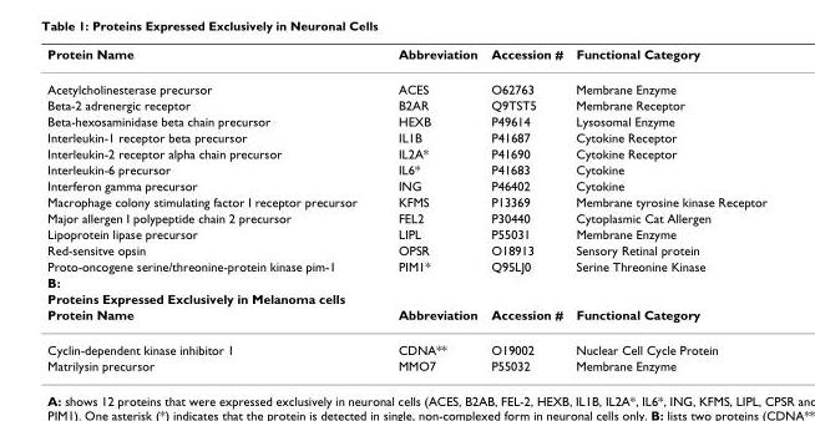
<table><thead><tr><td>Protein Name</td><td>Abbreviation</td><td>Accession #</td><td>Functional Category</td></tr></thead><tbody><tr><td>Acetylcholinesterase precursor</td><td>ACES</td><td>O62763</td><td>Membrane Enzyme</td></tr><tr><td>Beta-2 adrenergic receptor</td><td>B2AR</td><td>Q9TST5</td><td>Membrane Receptor</td></tr><tr><td>Beta-hexosaminidase beta chain precursor</td><td>HEXB</td><td>P49614</td><td>Lysosomal Enzyme</td></tr><tr><td>Interleukin-1 receptor beta precursor</td><td>IL1B</td><td>P41687</td><td>Cytokine Receptor</td></tr><tr><td>Interleukin-2 receptor alpha chain precursor</td><td>IL2A*</td><td>P41690</td><td>Cytokine Receptor</td></tr><tr><td>Interleukin-6 precursor</td><td>IL6*</td><td>P41683</td><td>Cytokine</td></tr><tr><td>Interferon gamma precursor</td><td>ING</td><td>P46402</td><td>Cytokine</td></tr><tr><td>Macrophage colony stimulating factor I receptor precursor</td><td>KFMS</td><td>P13369</td><td>Membrane tyrosine kinase Receptor</td></tr><tr><td>Major allergen I polypeptide chain 2 precursor</td><td>FEL2</td><td>P30440</td><td>Cytoplasmic Cat Allergen</td></tr><tr><td>Lipoprotein lipase precursor</td><td>LIPL</td><td>P55031</td><td>Membrane Enzyme</td></tr><tr><td>Red-sensitve opsin</td><td>OPSR</td><td>O18913</td><td>Sensory Retinal protein</td></tr><tr><td>Proto-oncogene serine/threonine-protein kinase pim-1</td><td>PIM1*</td><td>Q95LJ0</td><td>Serine Threonine Kinase</td></tr><tr><td colspan="4">B:</td></tr><tr><td colspan="4">Proteins Expressed Exclusively in Melanoma cells</td></tr><tr><td>Protein Name</td><td>Abbreviation</td><td>Accession #</td><td>Functional Category</td></tr><tr><td>Cyclin-dependent kinase inhibitor 1</td><td>CDNA**</td><td>O19002</td><td>Nuclear Cell Cycle Protein</td></tr><tr><td>Matrilysin precursor</td><td>MMO7</td><td>P55032</td><td>Membrane Enzyme</td></tr></tbody></table>